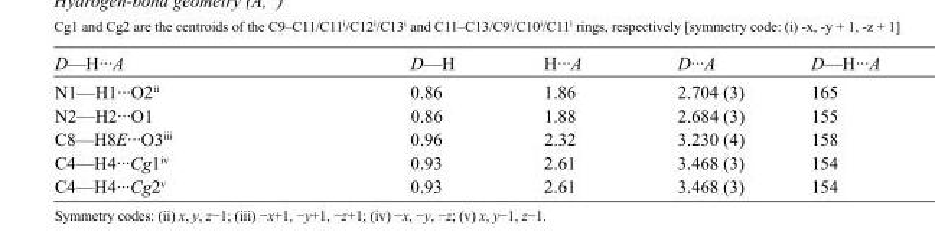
<table><tbody><tr><td>D—H···A</td><td>D—H</td><td>H···A</td><td>D···A</td><td>D—H···A</td></tr><tr><td>N1—H1···O2<sup>ii</sup></td><td>0.86</td><td>1.86</td><td>2.704 (3)</td><td>165</td></tr><tr><td>N2—H2···O1</td><td>0.86</td><td>1.88</td><td>2.684 (3)</td><td>155</td></tr><tr><td>C8—H8E···O3<sup>iii</sup></td><td>0.96</td><td>2.32</td><td>3.230 (4)</td><td>158</td></tr><tr><td>C4—H4···Cg1<sup>iv</sup></td><td>0.93</td><td>2.61</td><td>3.468 (3)</td><td>154</td></tr><tr><td>C4—H4···Cg2<sup>v</sup></td><td>0.93</td><td>2.61</td><td>3.468 (3)</td><td>154</td></tr></tbody></table>